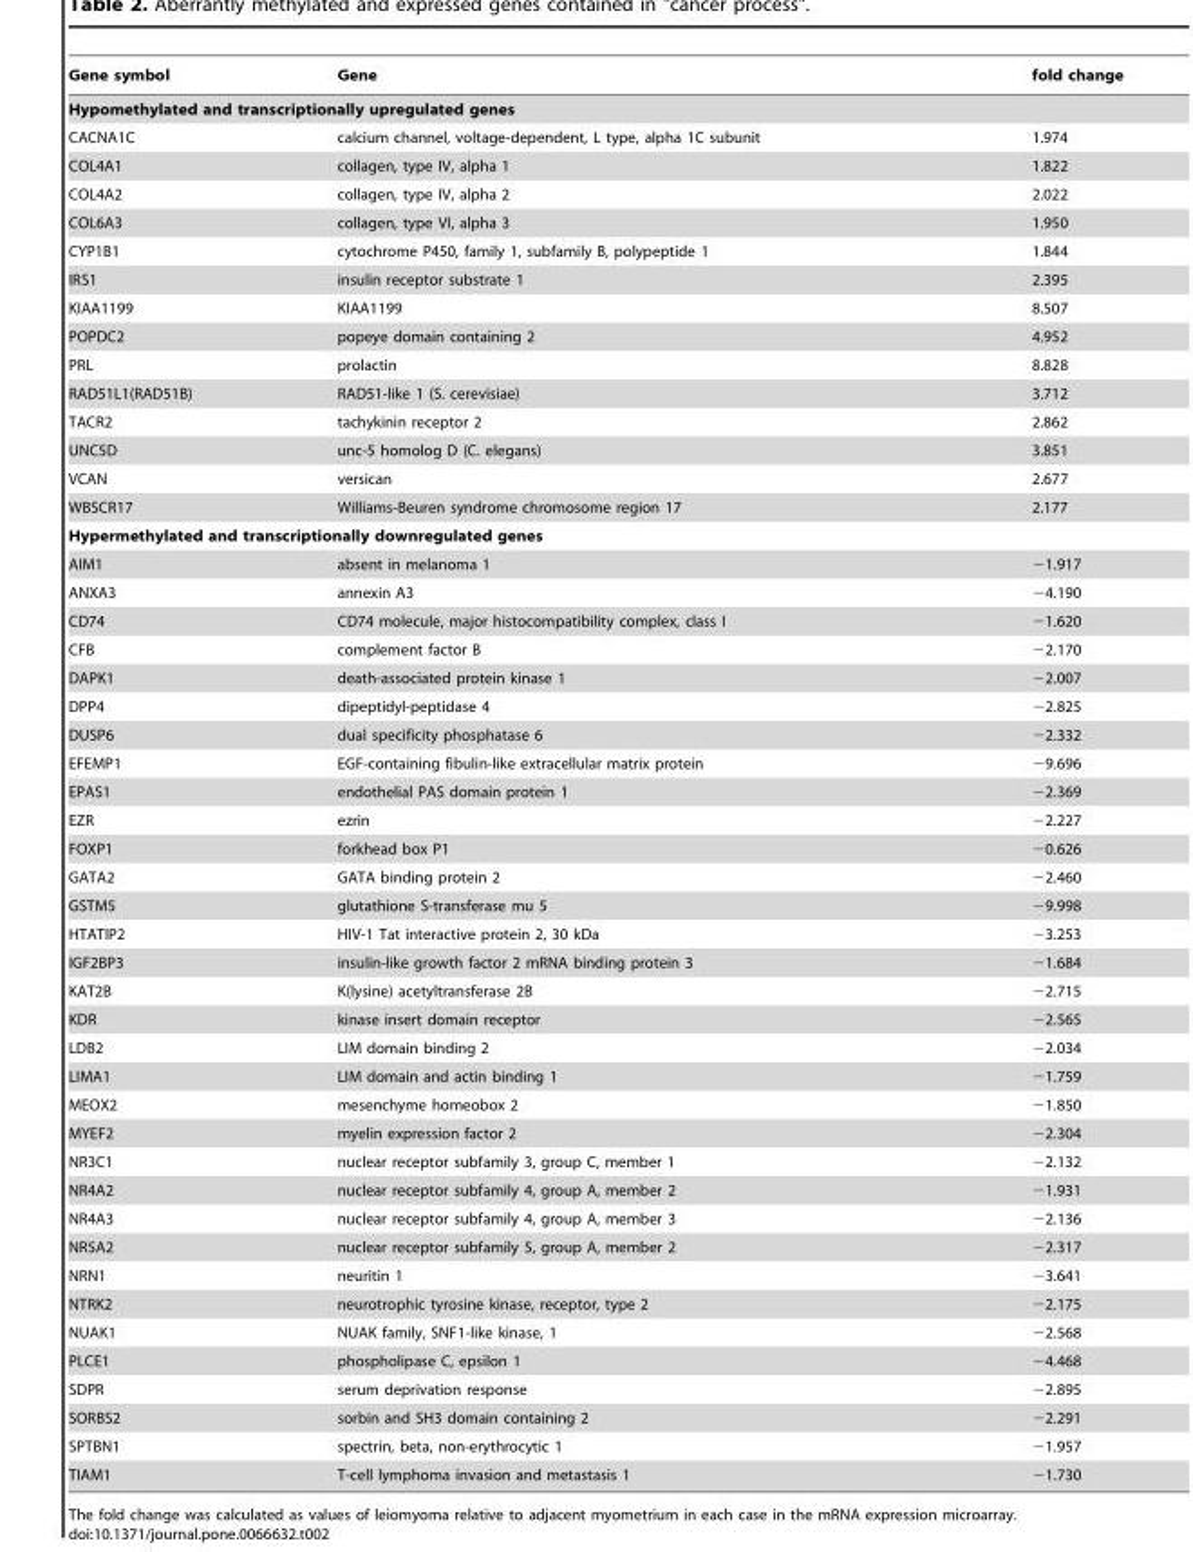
<table><thead><tr><td>Gene symbol</td><td>Gene</td><td>fold change</td></tr></thead><tbody><tr><td colspan="3">Hypomethylated and transcriptionally upregulated genes</td></tr><tr><td>CACNA1C</td><td>calcium channel, voltage-dependent, L type, alpha 1C subunit</td><td>1.974</td></tr><tr><td>COL4A1</td><td>collagen, type IV, alpha 1</td><td>1.822</td></tr><tr><td>COL4A2</td><td>collagen, type IV, alpha 2</td><td>2.022</td></tr><tr><td>COL6A3</td><td>collagen, type VI, alpha 3</td><td>1.950</td></tr><tr><td>CYP1B1</td><td>cytochrome P450, family 1, subfamily B, polypeptide 1</td><td>1.844</td></tr><tr><td>IRS1</td><td>insulin receptor substrate 1</td><td>2.395</td></tr><tr><td>KIAA1199</td><td>KIAA1199</td><td>8.507</td></tr><tr><td>POPDC2</td><td>popeye domain containing 2</td><td>4.952</td></tr><tr><td>PRL</td><td>prolactin</td><td>8.828</td></tr><tr><td>RAD51L1(RAD51B)</td><td>RAD51-like 1 (S. cerevisiae)</td><td>3.712</td></tr><tr><td>TACR2</td><td>tachykinin receptor 2</td><td>2.862</td></tr><tr><td>UNC5D</td><td>unc-5 homolog D (C. elegans)</td><td>3.851</td></tr><tr><td>VCAN</td><td>versican</td><td>2.677</td></tr><tr><td>WBSCR17</td><td>Williams-Beuren syndrome chromosome region 17</td><td>2.177</td></tr><tr><td colspan="3">Hypermethylated and transcriptionally downregulated genes</td></tr><tr><td>AIM1</td><td>absent in melanoma 1</td><td>−1.917</td></tr><tr><td>ANXA3</td><td>annexin A3</td><td>−4.190</td></tr><tr><td>CD74</td><td>CD74 molecule, major histocompatibility complex, class I</td><td>−1.620</td></tr><tr><td>CFB</td><td>complement factor B</td><td>−2.170</td></tr><tr><td>DAPK1</td><td>death-associated protein kinase 1</td><td>−2.007</td></tr><tr><td>DPP4</td><td>dipeptidyl-peptidase 4</td><td>−2.825</td></tr><tr><td>DUSP6</td><td>dual specificity phosphatase 6</td><td>−2.332</td></tr><tr><td>EFEMP1</td><td>EGF-containing fibulin-like extracellular matrix protein</td><td>−9.696</td></tr><tr><td>EPAS1</td><td>endothelial PAS domain protein 1</td><td>−2.369</td></tr><tr><td>EZR</td><td>ezrin</td><td>−2.227</td></tr><tr><td>FOXP1</td><td>forkhead box P1</td><td>−0.626</td></tr><tr><td>GATA2</td><td>GATA binding protein 2</td><td>−2.460</td></tr><tr><td>GSTM5</td><td>glutathione S-transferase mu 5</td><td>−9.998</td></tr><tr><td>HTATIP2</td><td>HIV-1 Tat interactive protein 2, 30 kDa</td><td>−3.253</td></tr><tr><td>IGF2BP3</td><td>insulin-like growth factor 2 mRNA binding protein 3</td><td>−1.684</td></tr><tr><td>KAT2B</td><td>K(lysine) acetyltransferase 2B</td><td>−2.715</td></tr><tr><td>KDR</td><td>kinase insert domain receptor</td><td>−2.565</td></tr><tr><td>LDB2</td><td>LIM domain binding 2</td><td>−2.034</td></tr><tr><td>LIMA1</td><td>LIM domain and actin binding 1</td><td>−1.759</td></tr><tr><td>MEOX2</td><td>mesenchyme homeobox 2</td><td>−1.850</td></tr><tr><td>MYEF2</td><td>myelin expression factor 2</td><td>−2.304</td></tr><tr><td>NR3C1</td><td>nuclear receptor subfamily 3, group C, member 1</td><td>−2.132</td></tr><tr><td>NR4A2</td><td>nuclear receptor subfamily 4, group A, member 2</td><td>−1.931</td></tr><tr><td>NR4A3</td><td>nuclear receptor subfamily 4, group A, member 3</td><td>−2.136</td></tr><tr><td>NR5A2</td><td>nuclear receptor subfamily 5, group A, member 2</td><td>−2.317</td></tr><tr><td>NRN1</td><td>neuritin 1</td><td>−3.641</td></tr><tr><td>NTRK2</td><td>neurotrophic tyrosine kinase, receptor, type 2</td><td>−2.175</td></tr><tr><td>NUAK1</td><td>NUAK family, SNF1-like kinase, 1</td><td>−2.568</td></tr><tr><td>PLCE1</td><td>phospholipase C, epsilon 1</td><td>−4.468</td></tr><tr><td>SDPR</td><td>serum deprivation response</td><td>−2.895</td></tr><tr><td>SORBS2</td><td>sorbin and SH3 domain containing 2</td><td>−2.291</td></tr><tr><td>SPTBN1</td><td>spectrin, beta, non-erythrocytic 1</td><td>−1.957</td></tr><tr><td>TIAM1</td><td>T-cell lymphoma invasion and metastasis 1</td><td>−1.730</td></tr></tbody></table>